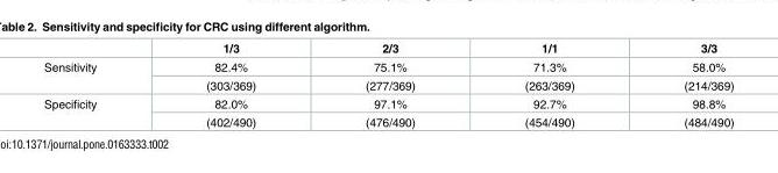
<table><thead><tr><td></td><td>1/3</td><td>2/3</td><td>1/1</td><td>3/3</td></tr></thead><tbody><tr><td rowspan="2">Sensitivity</td><td>82.4%</td><td>75.1%</td><td>71.3%</td><td>58.0%</td></tr><tr><td>(303/369)</td><td>(277/369)</td><td>(263/369)</td><td>(214/369)</td></tr><tr><td rowspan="2">Specificity</td><td>82.0%</td><td>97.1%</td><td>92.7%</td><td>98.8%</td></tr><tr><td>(402/490)</td><td>(476/490)</td><td>(454/490)</td><td>(484/490)</td></tr></tbody></table>